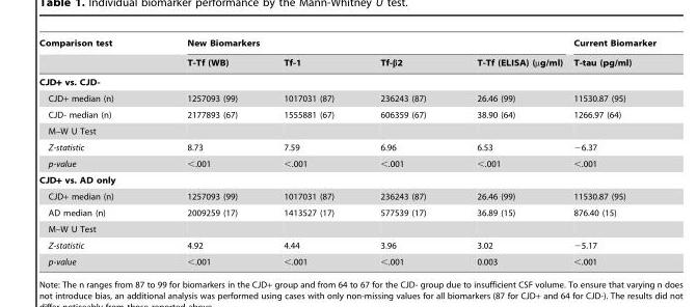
<table><thead><tr><td rowspan="2">Comparison test</td><td colspan="4">New Biomarkers</td><td rowspan="2">Current Biomarker T-tau (pg/ml)</td></tr><tr><td>T-Tf (WB)</td><td>Tf-1</td><td>Tf-β2</td><td>T-Tf (ELISA) (µg/ml)</td></tr></thead><tbody><tr><td colspan="6">CJD+ vs. CJD-</td></tr><tr><td>CJD+ median (n)</td><td>1257093 (99)</td><td>1017031 (87)</td><td>236243 (87)</td><td>26.46 (99)</td><td>11530.87 (95)</td></tr><tr><td>CJD- median (n)</td><td>2177893 (67)</td><td>1555881 (67)</td><td>606359 (67)</td><td>38.90 (64)</td><td>1266.97 (64)</td></tr><tr><td colspan="6">M–W U Test</td></tr><tr><td>Z-statistic</td><td>8.73</td><td>7.59</td><td>6.96</td><td>6.53</td><td>−6.37</td></tr><tr><td>p-value</td><td>&lt;.001</td><td>&lt;.001</td><td>&lt;.001</td><td>&lt;.001</td><td>&lt;.001</td></tr><tr><td colspan="6">CJD+ vs. AD only</td></tr><tr><td>CJD+ median (n)</td><td>1257093 (99)</td><td>1017031 (87)</td><td>236243 (87)</td><td>26.46 (99)</td><td>11530.87 (95)</td></tr><tr><td>AD median (n)</td><td>2009259 (17)</td><td>1413527 (17)</td><td>577539 (17)</td><td>36.89 (15)</td><td>876.40 (15)</td></tr><tr><td colspan="6">M–W U Test</td></tr><tr><td>Z-statistic</td><td>4.92</td><td>4.44</td><td>3.96</td><td>3.02</td><td>−5.17</td></tr><tr><td>p-value</td><td>&lt;.001</td><td>&lt;.001</td><td>&lt;.001</td><td>0.003</td><td>&lt;.001</td></tr></tbody></table>